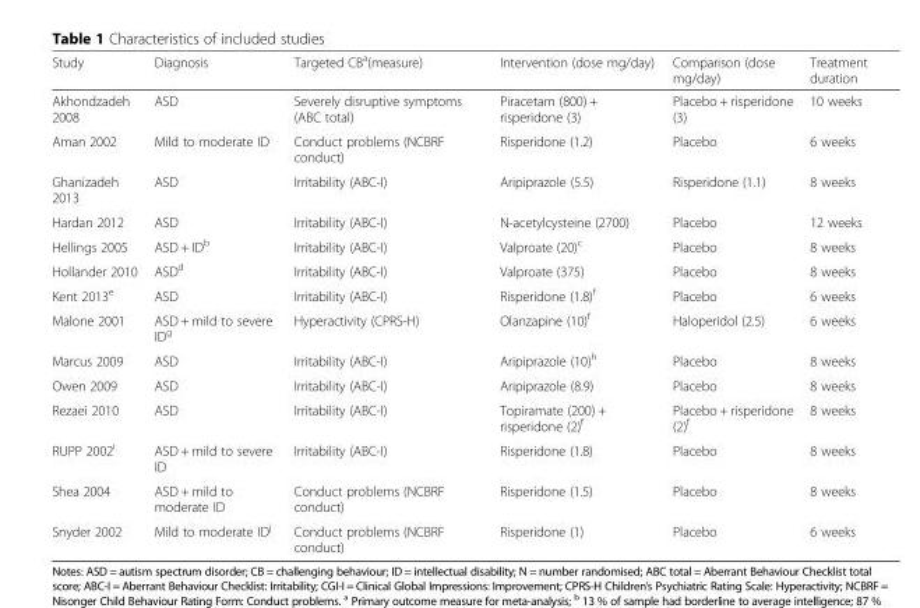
<table><thead><tr><td>Study</td><td>Diagnosis</td><td>Targeted CB<sup>a</sup>(measure)</td><td>Intervention (dose mg/day)</td><td>Comparison (dose mg/day)</td><td>Treatment duration</td></tr></thead><tbody><tr><td>Akhondzadeh 2008</td><td>ASD</td><td>Severely disruptive symptoms (ABC total)</td><td>Piracetam (800) + risperidone (3)</td><td>Placebo + risperidone (3)</td><td>10 weeks</td></tr><tr><td>Aman 2002</td><td>Mild to moderate ID</td><td>Conduct problems (NCBRF conduct)</td><td>Risperidone (1.2)</td><td>Placebo</td><td>6 weeks</td></tr><tr><td>Ghanizadeh 2013</td><td>ASD</td><td>Irritability (ABC-I)</td><td>Aripiprazole (5.5)</td><td>Risperidone (1.1)</td><td>8 weeks</td></tr><tr><td>Hardan 2012</td><td>ASD</td><td>Irritability (ABC-I)</td><td>N-acetylcysteine (2700)</td><td>Placebo</td><td>12 weeks</td></tr><tr><td>Hellings 2005</td><td>ASD + ID<sup>b</sup></td><td>Irritability (ABC-I)</td><td>Valproate (20)<sup>c</sup></td><td>Placebo</td><td>8 weeks</td></tr><tr><td>Hollander 2010</td><td>ASD<sup>d</sup></td><td>Irritability (ABC-I)</td><td>Valproate (375)</td><td>Placebo</td><td>8 weeks</td></tr><tr><td>Kent 2013<sup>e</sup></td><td>ASD</td><td>Irritability (ABC-I)</td><td>Risperidone (1.8)<sup>f</sup></td><td>Placebo</td><td>6 weeks</td></tr><tr><td>Malone 2001</td><td>ASD + mild to severe ID<sup>g</sup></td><td>Hyperactivity (CPRS-H)</td><td>Olanzapine (10)<sup>f</sup></td><td>Haloperidol (2.5)</td><td>6 weeks</td></tr><tr><td>Marcus 2009</td><td>ASD</td><td>Irritability (ABC-I)</td><td>Aripiprazole (10)<sup>h</sup></td><td>Placebo</td><td>8 weeks</td></tr><tr><td>Owen 2009</td><td>ASD</td><td>Irritability (ABC-I)</td><td>Aripiprazole (8.9)</td><td>Placebo</td><td>8 weeks</td></tr><tr><td>Rezaei 2010</td><td>ASD</td><td>Irritability (ABC-I)</td><td>Topiramate (200) + risperidone (2)<sup>f</sup></td><td>Placebo + risperidone (2)<sup>f</sup></td><td>8 weeks</td></tr><tr><td>RUPP 2002<sup>i</sup></td><td>ASD + mild to severe ID</td><td>Irritability (ABC-I)</td><td>Risperidone (1.8)</td><td>Placebo</td><td>8 weeks</td></tr><tr><td>Shea 2004</td><td>ASD + mild to moderate ID</td><td>Conduct problems (NCBRF conduct)</td><td>Risperidone (1.5)</td><td>Placebo</td><td>8 weeks</td></tr><tr><td>Snyder 2002</td><td>Mild to moderate ID<sup>j</sup></td><td>Conduct problems (NCBRF conduct)</td><td>Risperidone (1)</td><td>Placebo</td><td>6 weeks</td></tr></tbody></table>